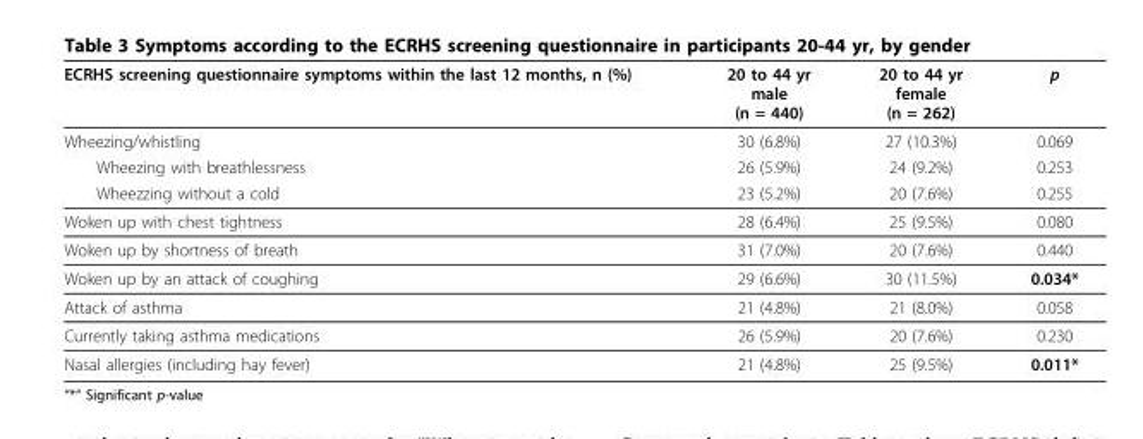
<table><thead><tr><td>ECRHS screening questionnaire symptoms within the last 12 months, n (%)</td><td>20 to 44 yr male (n = 440)</td><td>20 to 44 yr female (n = 262)</td><td>p</td></tr></thead><tbody><tr><td>Wheezing/whistling</td><td>30 (6.8%)</td><td>27 (10.3%)</td><td>0.069</td></tr><tr><td>Wheezing with breathlessness</td><td>26 (5.9%)</td><td>24 (9.2%)</td><td>0.253</td></tr><tr><td>Wheezzing without a cold</td><td>23 (5.2%)</td><td>20 (7.6%)</td><td>0.255</td></tr><tr><td>Woken up with chest tightness</td><td>28 (6.4%)</td><td>25 (9.5%)</td><td>0.080</td></tr><tr><td>Woken up by shortness of breath</td><td>31 (7.0%)</td><td>20 (7.6%)</td><td>0.440</td></tr><tr><td>Woken up by an attack of coughing</td><td>29 (6.6%)</td><td>30 (11.5%)</td><td>0.034*</td></tr><tr><td>Attack of asthma</td><td>21 (4.8%)</td><td>21 (8.0%)</td><td>0.058</td></tr><tr><td>Currently taking asthma medications</td><td>26 (5.9%)</td><td>20 (7.6%)</td><td>0.230</td></tr><tr><td>Nasal allergies (including hay fever)</td><td>21 (4.8%)</td><td>25 (9.5%)</td><td>0.011*</td></tr></tbody></table>